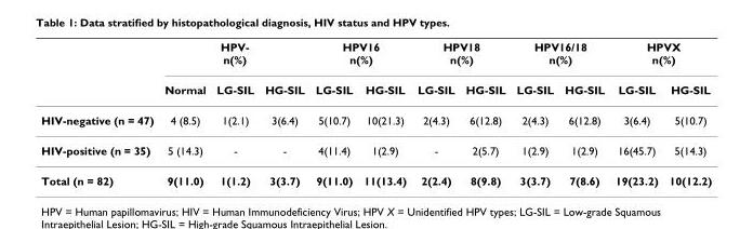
<table><thead><tr><td rowspan="2"></td><td colspan="3">HPV- n(%)</td><td colspan="2">HPV16 n(%)</td><td colspan="2">HPV18 n(%)</td><td colspan="2">HPV16/18 n(%)</td><td colspan="2">HPVX n(%)</td></tr><tr><td>Normal</td><td>LG-SIL</td><td>HG-SIL</td><td>LG-SIL</td><td>HG-SIL</td><td>LG-SIL</td><td>HG-SIL</td><td>LG-SIL</td><td>HG-SIL</td><td>LG-SIL</td><td>HG-SIL</td></tr></thead><tbody><tr><td>HIV-negative (n = 47)</td><td>4 (8.5)</td><td>1(2.1)</td><td>3(6.4)</td><td>5(10.7)</td><td>10(21.3)</td><td>2(4.3)</td><td>6(12.8)</td><td>2(4.3)</td><td>6(12.8)</td><td>3(6.4)</td><td>5(10.7)</td></tr><tr><td>HIV-positive (n = 35)</td><td>5 (14.3)</td><td>-</td><td>-</td><td>4(11.4)</td><td>1(2.9)</td><td>-</td><td>2(5.7)</td><td>1(2.9)</td><td>1(2.9)</td><td>16(45.7)</td><td>5(14.3)</td></tr><tr><td>Total (n = 82)</td><td>9(11.0)</td><td>1(1.2)</td><td>3(3.7)</td><td>9(11.0)</td><td>11(13.4)</td><td>2(2.4)</td><td>8(9.8)</td><td>3(3.7)</td><td>7(8.6)</td><td>19(23.2)</td><td>10(12.2)</td></tr></tbody></table>